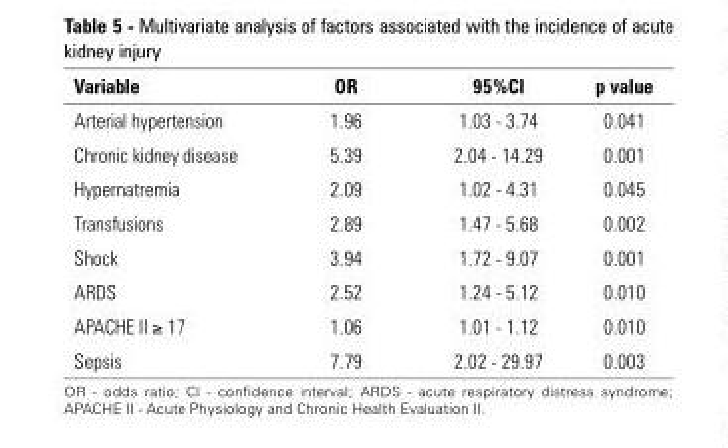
<table><thead><tr><td>Variable</td><td>OR</td><td>95%CI</td><td>p value</td></tr></thead><tbody><tr><td>Arterial hypertension</td><td>1.96</td><td>1.03 - 3.74</td><td>0.041</td></tr><tr><td>Chronic kidney disease</td><td>5.39</td><td>2.04 - 14.29</td><td>0.001</td></tr><tr><td>Hypernatremia</td><td>2.09</td><td>1.02 - 4.31</td><td>0.045</td></tr><tr><td>Transfusions</td><td>2.89</td><td>1.47 - 5.68</td><td>0.002</td></tr><tr><td>Shock</td><td>3.94</td><td>1.72 - 9.07</td><td>0.001</td></tr><tr><td>ARDS</td><td>2.52</td><td>1.24 - 5.12</td><td>0.010</td></tr><tr><td>APACHE II ≥ 17</td><td>1.06</td><td>1.01 - 1.12</td><td>0.010</td></tr><tr><td>Sepsis</td><td>7.79</td><td>2.02 - 29.97</td><td>0.003</td></tr></tbody></table>